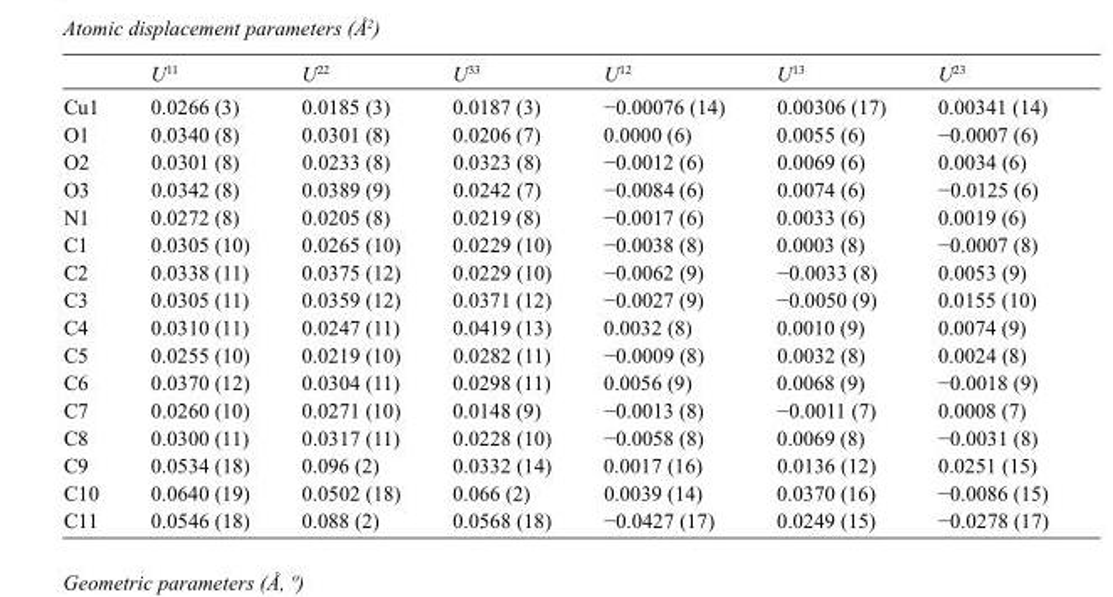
<table><thead><tr><td></td><td>U<sup>11</sup></td><td>U<sup>22</sup></td><td>U<sup>33</sup></td><td>U<sup>12</sup></td><td>U<sup>13</sup></td><td>U<sup>23</sup></td></tr></thead><tbody><tr><td>Cu1</td><td>0.0266 (3)</td><td>0.0185 (3)</td><td>0.0187 (3)</td><td>−0.00076 (14)</td><td>0.00306 (17)</td><td>0.00341 (14)</td></tr><tr><td>O1</td><td>0.0340 (8)</td><td>0.0301 (8)</td><td>0.0206 (7)</td><td>0.0000 (6)</td><td>0.0055 (6)</td><td>−0.0007 (6)</td></tr><tr><td>O2</td><td>0.0301 (8)</td><td>0.0233 (8)</td><td>0.0323 (8)</td><td>−0.0012 (6)</td><td>0.0069 (6)</td><td>0.0034 (6)</td></tr><tr><td>O3</td><td>0.0342 (8)</td><td>0.0389 (9)</td><td>0.0242 (7)</td><td>−0.0084 (6)</td><td>0.0074 (6)</td><td>−0.0125 (6)</td></tr><tr><td>N1</td><td>0.0272 (8)</td><td>0.0205 (8)</td><td>0.0219 (8)</td><td>−0.0017 (6)</td><td>0.0033 (6)</td><td>0.0019 (6)</td></tr><tr><td>C1</td><td>0.0305 (10)</td><td>0.0265 (10)</td><td>0.0229 (10)</td><td>−0.0038 (8)</td><td>0.0003 (8)</td><td>−0.0007 (8)</td></tr><tr><td>C2</td><td>0.0338 (11)</td><td>0.0375 (12)</td><td>0.0229 (10)</td><td>−0.0062 (9)</td><td>−0.0033 (8)</td><td>0.0053 (9)</td></tr><tr><td>C3</td><td>0.0305 (11)</td><td>0.0359 (12)</td><td>0.0371 (12)</td><td>−0.0027 (9)</td><td>−0.0050 (9)</td><td>0.0155 (10)</td></tr><tr><td>C4</td><td>0.0310 (11)</td><td>0.0247 (11)</td><td>0.0419 (13)</td><td>0.0032 (8)</td><td>0.0010 (9)</td><td>0.0074 (9)</td></tr><tr><td>C5</td><td>0.0255 (10)</td><td>0.0219 (10)</td><td>0.0282 (11)</td><td>−0.0009 (8)</td><td>0.0032 (8)</td><td>0.0024 (8)</td></tr><tr><td>C6</td><td>0.0370 (12)</td><td>0.0304 (11)</td><td>0.0298 (11)</td><td>0.0056 (9)</td><td>0.0068 (9)</td><td>−0.0018 (9)</td></tr><tr><td>C7</td><td>0.0260 (10)</td><td>0.0271 (10)</td><td>0.0148 (9)</td><td>−0.0013 (8)</td><td>−0.0011 (7)</td><td>0.0008 (7)</td></tr><tr><td>C8</td><td>0.0300 (11)</td><td>0.0317 (11)</td><td>0.0228 (10)</td><td>−0.0058 (8)</td><td>0.0069 (8)</td><td>−0.0031 (8)</td></tr><tr><td>C9</td><td>0.0534 (18)</td><td>0.096 (2)</td><td>0.0332 (14)</td><td>0.0017 (16)</td><td>0.0136 (12)</td><td>0.0251 (15)</td></tr><tr><td>C10</td><td>0.0640 (19)</td><td>0.0502 (18)</td><td>0.066 (2)</td><td>0.0039 (14)</td><td>0.0370 (16)</td><td>−0.0086 (15)</td></tr><tr><td>C11</td><td>0.0546 (18)</td><td>0.088 (2)</td><td>0.0568 (18)</td><td>−0.0427 (17)</td><td>0.0249 (15)</td><td>−0.0278 (17)</td></tr></tbody></table>